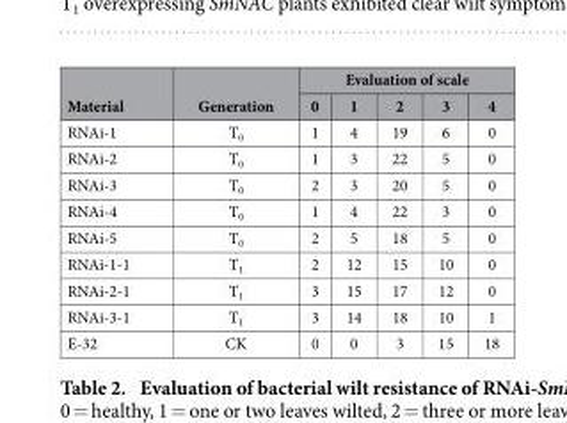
<table><thead><tr><td rowspan="2">Material</td><td rowspan="2">Generation</td><td colspan="5">Evaluation of scale</td></tr><tr><td>0</td><td>1</td><td>2</td><td>3</td><td>4</td></tr></thead><tbody><tr><td>RNAi-1</td><td>T<sub>0</sub></td><td>1</td><td>4</td><td>19</td><td>6</td><td>0</td></tr><tr><td>RNAi-2</td><td>T<sub>0</sub></td><td>1</td><td>3</td><td>22</td><td>5</td><td>0</td></tr><tr><td>RNAi-3</td><td>T<sub>0</sub></td><td>2</td><td>3</td><td>20</td><td>5</td><td>0</td></tr><tr><td>RNAi-4</td><td>T<sub>0</sub></td><td>1</td><td>4</td><td>22</td><td>3</td><td>0</td></tr><tr><td>RNAi-5</td><td>T<sub>0</sub></td><td>2</td><td>5</td><td>18</td><td>5</td><td>0</td></tr><tr><td>RNAi-1-1</td><td>T<sub>1</sub></td><td>2</td><td>12</td><td>15</td><td>10</td><td>0</td></tr><tr><td>RNAi-2-1</td><td>T<sub>1</sub></td><td>3</td><td>15</td><td>17</td><td>12</td><td>0</td></tr><tr><td>RNAi-3-1</td><td>T<sub>1</sub></td><td>3</td><td>14</td><td>18</td><td>10</td><td>1</td></tr><tr><td>E-32</td><td>CK</td><td>0</td><td>0</td><td>3</td><td>15</td><td>18</td></tr></tbody></table>